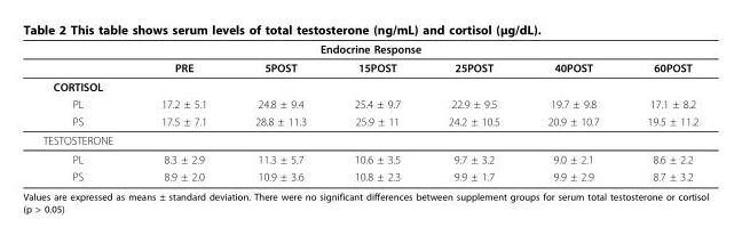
<table><thead><tr><td colspan="7">Endocrine Response</td></tr><tr><td></td><td>PRE</td><td>5POST</td><td>15POST</td><td>25POST</td><td>40POST</td><td>60POST</td></tr></thead><tbody><tr><td colspan="7">CORTISOL</td></tr><tr><td>PL</td><td>17.2 ± 5.1</td><td>24.8 ± 9.4</td><td>25.4 ± 9.7</td><td>22.9 ± 9.5</td><td>19.7 ± 9.8</td><td>17.1 ± 8.2</td></tr><tr><td>PS</td><td>17.5 ± 7.1</td><td>28.8 ± 11.3</td><td>25.9 ± 11</td><td>24.2 ± 10.5</td><td>20.9 ± 10.7</td><td>19.5 ± 11.2</td></tr><tr><td colspan="7">TESTOSTERONE</td></tr><tr><td>PL</td><td>8.3 ± 2.9</td><td>11.3 ± 5.7</td><td>10.6 ± 3.5</td><td>9.7 ± 3.2</td><td>9.0 ± 2.1</td><td>8.6 ± 2.2</td></tr><tr><td>PS</td><td>8.9 ± 2.0</td><td>10.9 ± 3.6</td><td>10.8 ± 2.3</td><td>9.9 ± 1.7</td><td>9.9 ± 2.9</td><td>8.7 ± 3.2</td></tr></tbody></table>